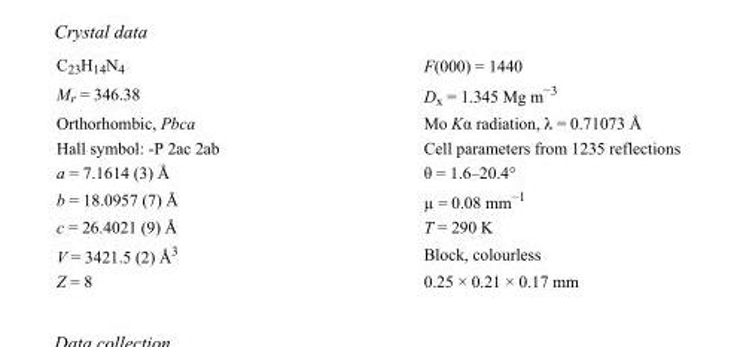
<table><tbody><tr><td>C<sub>23</sub>H<sub>14</sub>N<sub>4</sub></td><td>F(000) = 1440</td></tr><tr><td>M<sub>r</sub> = 346.38</td><td>D<sub>x</sub> = 1.345 Mg m<sup>−3</sup></td></tr><tr><td>Orthorhombic, Pbca</td><td>Mo Kα radiation, λ = 0.71073 Å</td></tr><tr><td>Hall symbol: -P 2ac 2ab</td><td>Cell parameters from 1235 reflections</td></tr><tr><td>a = 7.1614 (3) Å</td><td>θ = 1.6–20.4°</td></tr><tr><td>b = 18.0957 (7) Å</td><td>µ = 0.08 mm<sup>−1</sup></td></tr><tr><td>c = 26.4021 (9) Å</td><td>T = 290 K</td></tr><tr><td>V = 3421.5 (2) Å<sup>3</sup></td><td>Block, colourless</td></tr><tr><td>Z = 8</td><td>0.25 × 0.21 × 0.17 mm</td></tr></tbody></table>